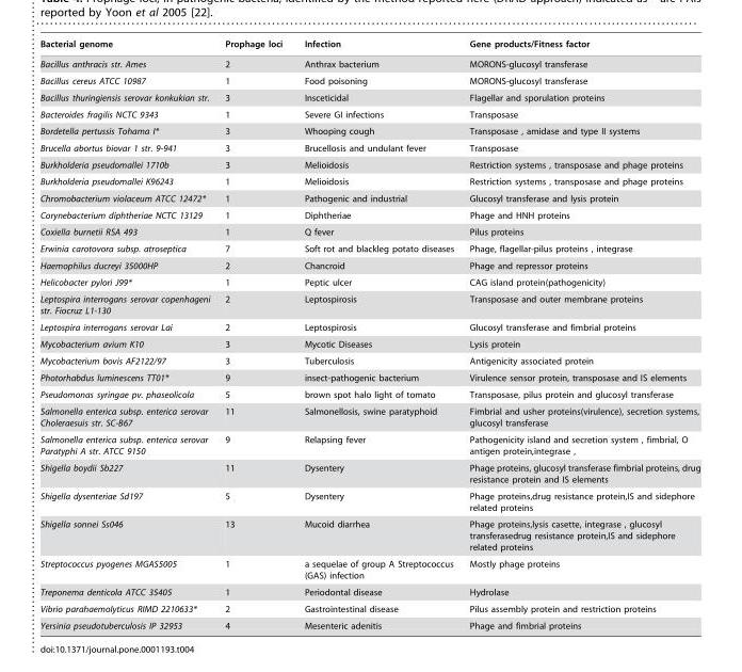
<table><thead><tr><td>Bacterial genome</td><td>Prophage loci</td><td>Infection</td><td>Gene products/Fitness factor</td></tr></thead><tbody><tr><td>Bacillus anthracis str. Ames</td><td>2</td><td>Anthrax bacterium</td><td>MORONS-glucosyl transferase</td></tr><tr><td>Bacillus cereus ATCC 10987</td><td>1</td><td>Food poisoning</td><td>MORONS-glucosyl transferase</td></tr><tr><td>Bacillus thuringiensis serovar konkukian str.</td><td>3</td><td>Insceticidal</td><td>Flagellar and sporulation proteins</td></tr><tr><td>Bacteroides fragilis NCTC 9343</td><td>1</td><td>Severe GI infections</td><td>Transposase</td></tr><tr><td>Bordetella pertussis Tohama I*</td><td>3</td><td>Whooping cough</td><td>Transposase , amidase and type II systems</td></tr><tr><td>Brucella abortus biovar 1 str. 9-941</td><td>3</td><td>Brucellosis and undulant fever</td><td>Transposase</td></tr><tr><td>Burkholderia pseudomallei 1710b</td><td>3</td><td>Melioidosis</td><td>Restriction systems , transposase and phage proteins</td></tr><tr><td>Burkholderia pseudomallei K96243</td><td>1</td><td>Melioidosis</td><td>Restriction systems , transposase and phage proteins</td></tr><tr><td>Chromobacterium violaceum ATCC 12472*</td><td>1</td><td>Pathogenic and industrial</td><td>Glucosyl transferase and lysis protein</td></tr><tr><td>Corynebacterium diphtheriae NCTC 13129</td><td>1</td><td>Diphtheriae</td><td>Phage and HNH proteins</td></tr><tr><td>Coxiella burnetii RSA 493</td><td>1</td><td>Q fever</td><td>Pilus proteins</td></tr><tr><td>Erwinia carotovora subsp. atroseptica</td><td>7</td><td>Soft rot and blackleg potato diseases</td><td>Phage, flagellar-pilus proteins , integrase</td></tr><tr><td>Haemophilus ducreyi 35000HP</td><td>2</td><td>Chancroid</td><td>Phage and repressor proteins</td></tr><tr><td>Helicobacter pylori J99*</td><td>1</td><td>Peptic ulcer</td><td>CAG island protein(pathogenicity)</td></tr><tr><td>Leptospira interrogans serovar copenhageni str. Fiocruz L1-130</td><td>2</td><td>Leptospirosis</td><td>Transposase and outer membrane proteins</td></tr><tr><td>Leptospira interrogans serovar Lai</td><td>2</td><td>Leptospirosis</td><td>Glucosyl transferase and fimbrial proteins</td></tr><tr><td>Mycobacterium avium K10</td><td>3</td><td>Mycotic Diseases</td><td>Lysis protein</td></tr><tr><td>Mycobacterium bovis AF2122/97</td><td>3</td><td>Tuberculosis</td><td>Antigenicity associated protein</td></tr><tr><td>Photorhabdus luminescens TT01*</td><td>9</td><td>insect-pathogenic bacterium</td><td>Virulence sensor protein, transposase and IS elements</td></tr><tr><td>Pseudomonas syringae pv. phaseolicola</td><td>5</td><td>brown spot halo light of tomato</td><td>Transposase, pilus protein and glucosyl transferase</td></tr><tr><td>Salmonella enterica subsp. enterica serovar Choleraesuis str. SC-B67</td><td>11</td><td>Salmonellosis, swine paratyphoid</td><td>Fimbrial and usher proteins(virulence), secretion systems, glucosyl transferase</td></tr><tr><td>Salmonella enterica subsp. enterica serovar Paratyphi A str. ATCC 9150</td><td>9</td><td>Relapsing fever</td><td>Pathogenicity island and secretion system , fimbrial, O antigen protein,integrase ,</td></tr><tr><td>Shigella boydii Sb227</td><td>11</td><td>Dysentery</td><td>Phage proteins, glucosyl transferase fimbrial proteins, drug resistance protein and IS elements</td></tr><tr><td>Shigella dysenteriae Sd197</td><td>5</td><td>Dysentery</td><td>Phage proteins,drug resistance protein,IS and sidephore related proteins</td></tr><tr><td>Shigella sonnei Ss046</td><td>13</td><td>Mucoid diarrhea</td><td>Phage proteins,lysis casette, integrase , glucosyl transferasedrug resistance protein,IS and sidephore related proteins</td></tr><tr><td>Streptococcus pyogenes MGAS5005</td><td>1</td><td>a sequelae of group A Streptococcus (GAS) infection</td><td>Mostly phage proteins</td></tr><tr><td>Treponema denticola ATCC 35405</td><td>1</td><td>Periodontal disease</td><td>Hydrolase</td></tr><tr><td>Vibrio parahaemolyticus RIMD 2210633*</td><td>2</td><td>Gastrointestinal disease</td><td>Pilus assembly protein and restriction proteins</td></tr><tr><td>Yersinia pseudotuberculosis IP 32953</td><td>4</td><td>Mesenteric adenitis</td><td>Phage and fimbrial proteins</td></tr></tbody></table>